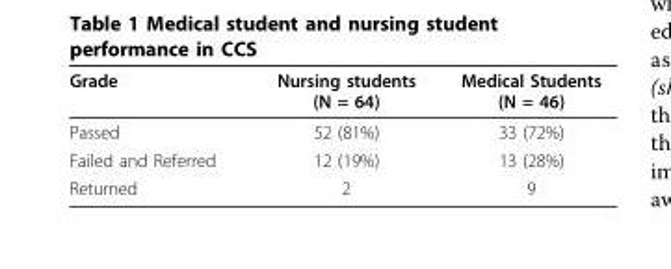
<table><thead><tr><td>Grade</td><td>Nursing students (N = 64)</td><td>Medical Students (N = 46)</td></tr></thead><tbody><tr><td>Passed</td><td>52 (81%)</td><td>33 (72%)</td></tr><tr><td>Failed and Referred</td><td>12 (19%)</td><td>13 (28%)</td></tr><tr><td>Returned</td><td>2</td><td>9</td></tr></tbody></table>